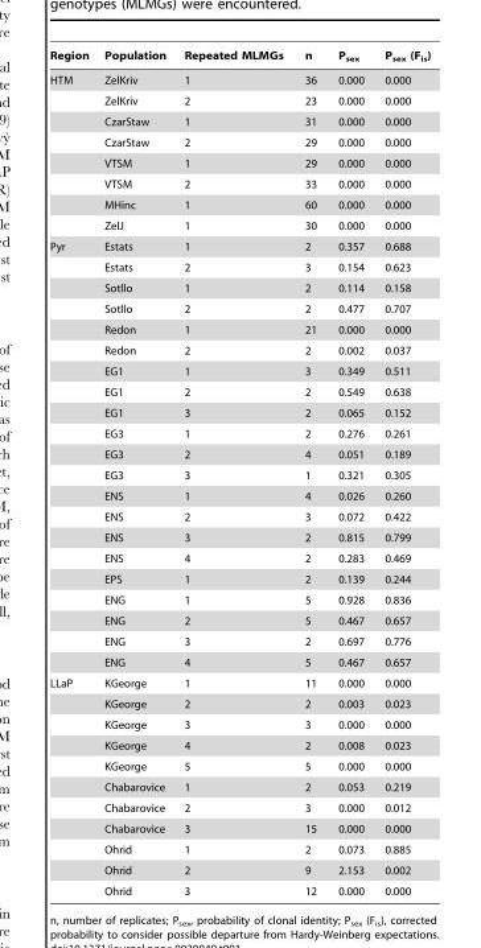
<table><thead><tr><td>Region</td><td>Population</td><td>Repeated MLMGs</td><td>n</td><td>P<sub>sex</sub></td><td>P<sub>sex</sub> (F<sub>is</sub>)</td></tr></thead><tbody><tr><td rowspan="8">HTM</td><td>ZelKriv</td><td>1</td><td>36</td><td>0.000</td><td>0.000</td></tr><tr><td>ZelKriv</td><td>2</td><td>23</td><td>0.000</td><td>0.000</td></tr><tr><td>CzarStaw</td><td>1</td><td>31</td><td>0.000</td><td>0.000</td></tr><tr><td>CzarStaw</td><td>2</td><td>29</td><td>0.000</td><td>0.000</td></tr><tr><td>VTSM</td><td>1</td><td>29</td><td>0.000</td><td>0.000</td></tr><tr><td>VTSM</td><td>2</td><td>33</td><td>0.000</td><td>0.000</td></tr><tr><td>MHinc</td><td>1</td><td>60</td><td>0.000</td><td>0.000</td></tr><tr><td>ZelJ</td><td>1</td><td>30</td><td>0.000</td><td>0.000</td></tr><tr><td rowspan="21">Pyr</td><td>Estats</td><td>1</td><td>2</td><td>0.357</td><td>0.688</td></tr><tr><td>Estats</td><td>2</td><td>3</td><td>0.154</td><td>0.623</td></tr><tr><td>Sotllo</td><td>1</td><td>2</td><td>0.114</td><td>0.158</td></tr><tr><td>Sotllo</td><td>2</td><td>2</td><td>0.477</td><td>0.707</td></tr><tr><td>Redon</td><td>1</td><td>21</td><td>0.000</td><td>0.000</td></tr><tr><td>Redon</td><td>2</td><td>2</td><td>0.002</td><td>0.037</td></tr><tr><td>EG1</td><td>1</td><td>3</td><td>0.349</td><td>0.511</td></tr><tr><td>EG1</td><td>2</td><td>2</td><td>0.549</td><td>0.638</td></tr><tr><td>EG1</td><td>3</td><td>2</td><td>0.065</td><td>0.152</td></tr><tr><td>EG3</td><td>1</td><td>2</td><td>0.276</td><td>0.261</td></tr><tr><td>EG3</td><td>2</td><td>4</td><td>0.051</td><td>0.189</td></tr><tr><td>EG3</td><td>3</td><td>1</td><td>0.321</td><td>0.305</td></tr><tr><td>ENS</td><td>1</td><td>4</td><td>0.026</td><td>0.260</td></tr><tr><td>ENS</td><td>2</td><td>3</td><td>0.072</td><td>0.422</td></tr><tr><td>ENS</td><td>3</td><td>2</td><td>0.815</td><td>0.799</td></tr><tr><td>ENS</td><td>4</td><td>2</td><td>0.283</td><td>0.469</td></tr><tr><td>EPS</td><td>1</td><td>2</td><td>0.139</td><td>0.244</td></tr><tr><td>ENG</td><td>1</td><td>5</td><td>0.928</td><td>0.836</td></tr><tr><td>ENG</td><td>2</td><td>5</td><td>0.467</td><td>0.657</td></tr><tr><td>ENG</td><td>3</td><td>2</td><td>0.697</td><td>0.776</td></tr><tr><td>ENG</td><td>4</td><td>5</td><td>0.467</td><td>0.657</td></tr><tr><td rowspan="11">LLaP</td><td>KGeorge</td><td>1</td><td>11</td><td>0.000</td><td>0.000</td></tr><tr><td>KGeorge</td><td>2</td><td>2</td><td>0.003</td><td>0.023</td></tr><tr><td>KGeorge</td><td>3</td><td>3</td><td>0.000</td><td>0.000</td></tr><tr><td>KGeorge</td><td>4</td><td>2</td><td>0.008</td><td>0.023</td></tr><tr><td>KGeorge</td><td>5</td><td>5</td><td>0.000</td><td>0.000</td></tr><tr><td>Chabarovice</td><td>1</td><td>2</td><td>0.053</td><td>0.219</td></tr><tr><td>Chabarovice</td><td>2</td><td>3</td><td>0.000</td><td>0.012</td></tr><tr><td>Chabarovice</td><td>3</td><td>15</td><td>0.000</td><td>0.000</td></tr><tr><td>Ohrid</td><td>1</td><td>2</td><td>0.073</td><td>0.885</td></tr><tr><td>Ohrid</td><td>2</td><td>9</td><td>2.153</td><td>0.002</td></tr><tr><td>Ohrid</td><td>3</td><td>12</td><td>0.000</td><td>0.000</td></tr></tbody></table>